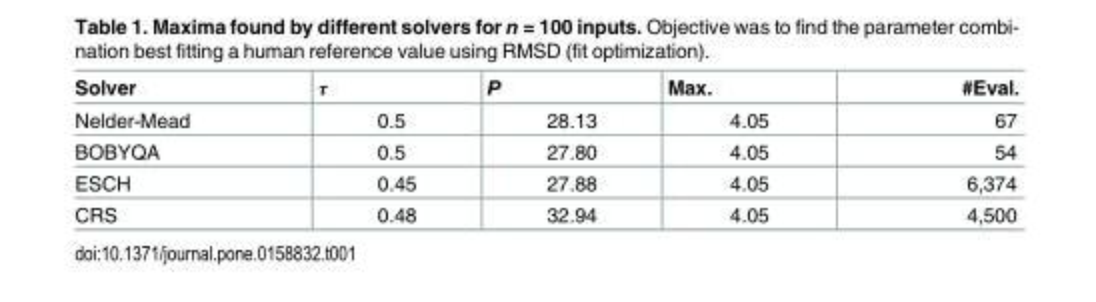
<table><thead><tr><td>Solver</td><td>τ</td><td>P</td><td>Max.</td><td>#Eval.</td></tr></thead><tbody><tr><td>Nelder-Mead</td><td>0.5</td><td>28.13</td><td>4.05</td><td>67</td></tr><tr><td>BOBYQA</td><td>0.5</td><td>27.80</td><td>4.05</td><td>54</td></tr><tr><td>ESCH</td><td>0.45</td><td>27.88</td><td>4.05</td><td>6,374</td></tr><tr><td>CRS</td><td>0.48</td><td>32.94</td><td>4.05</td><td>4,500</td></tr></tbody></table>